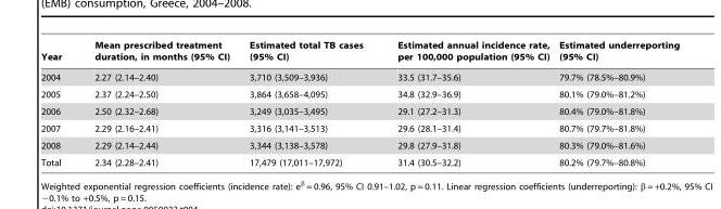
<table><thead><tr><td>Year</td><td>Mean prescribed treatment duration, in months (95% CI)</td><td>Estimated total TB cases (95% CI)</td><td>Estimated annual incidence rate, per 100,000 population (95% CI)</td><td>Estimated underreporting (95% CI)</td></tr></thead><tbody><tr><td>2004</td><td>2.27 (2.14–2.40)</td><td>3,710 (3,509–3,936)</td><td>33.5 (31.7–35.6)</td><td>79.7% (78.5%–80.9%)</td></tr><tr><td>2005</td><td>2.37 (2.24–2.50)</td><td>3,864 (3,658–4,095)</td><td>34.8 (32.9–36.9)</td><td>80.1% (79.0%–81.2%)</td></tr><tr><td>2006</td><td>2.50 (2.32–2.68)</td><td>3,249 (3,035–3,495)</td><td>29.1 (27.2–31.3)</td><td>80.4% (79.0%–81.8%)</td></tr><tr><td>2007</td><td>2.29 (2.16–2.41)</td><td>3,316 (3,141–3,513)</td><td>29.6 (28.1–31.4)</td><td>80.7% (79.7%–81.8%)</td></tr><tr><td>2008</td><td>2.29 (2.14–2.44)</td><td>3,344 (3,138–3,578)</td><td>29.8 (27.9–31.8)</td><td>80.3% (79.0%–81.6%)</td></tr><tr><td>Total</td><td>2.34 (2.28–2.41)</td><td>17,479 (17,011–17,972)</td><td>31.4 (30.5–32.2)</td><td>80.2% (79.7%–80.8%)</td></tr></tbody></table>